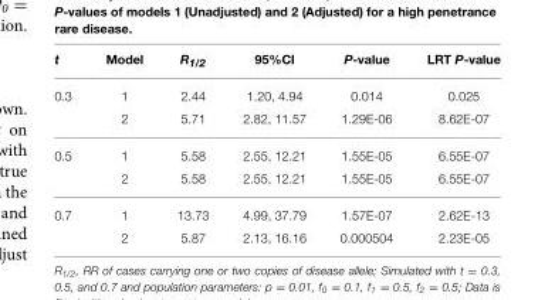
<table><thead><tr><td>t</td><td>Model</td><td>R1/2</td><td>95%CI</td><td>P-value</td><td>LRT P-value</td></tr></thead><tbody><tr><td rowspan="2">0.3</td><td>1</td><td>2.44</td><td>1.20, 4.94</td><td>0.014</td><td>0.025</td></tr><tr><td>2</td><td>5.71</td><td>2.82, 11.57</td><td>1.29E-06</td><td>8.62E-07</td></tr><tr><td rowspan="2">0.5</td><td>1</td><td>5.58</td><td>2.55, 12.21</td><td>1.55E-05</td><td>6.55E-07</td></tr><tr><td>2</td><td>5.58</td><td>2.55, 12.21</td><td>1.55E-05</td><td>6.55E-07</td></tr><tr><td rowspan="2">0.7</td><td>1</td><td>13.73</td><td>4.99, 37.79</td><td>1.57E-07</td><td>2.62E-13</td></tr><tr><td>2</td><td>5.87</td><td>2.13, 16.16</td><td>0.000504</td><td>2.23E-05</td></tr></tbody></table>